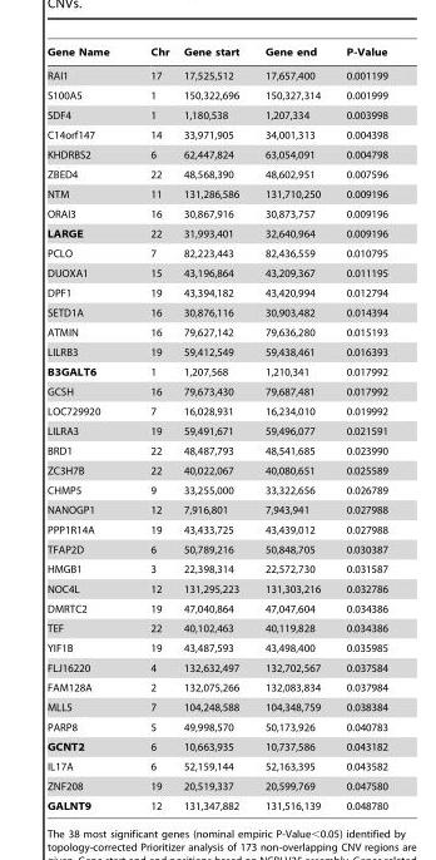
<table><thead><tr><td>Gene Name</td><td>Chr</td><td>Gene start</td><td>Gene end</td><td>P-Value</td></tr></thead><tbody><tr><td>RAI1</td><td>17</td><td>17,525,512</td><td>17,657,400</td><td>0.001199</td></tr><tr><td>S100A5</td><td>1</td><td>150,322,696</td><td>150,327,314</td><td>0.001999</td></tr><tr><td>SDF4</td><td>1</td><td>1,180,538</td><td>1,207,334</td><td>0.003998</td></tr><tr><td>C14orf147</td><td>14</td><td>33,971,905</td><td>34,001,313</td><td>0.004398</td></tr><tr><td>KHDRBS2</td><td>6</td><td>62,447,824</td><td>63,054,091</td><td>0.004798</td></tr><tr><td>ZBED4</td><td>22</td><td>48,568,390</td><td>48,602,951</td><td>0.007596</td></tr><tr><td>NTM</td><td>11</td><td>131,286,586</td><td>131,710,250</td><td>0.009196</td></tr><tr><td>ORAI3</td><td>16</td><td>30,867,916</td><td>30,873,757</td><td>0.009196</td></tr><tr><td>LARGE</td><td>22</td><td>31,993,401</td><td>32,640,964</td><td>0.009196</td></tr><tr><td>PCLO</td><td>7</td><td>82,223,443</td><td>82,436,559</td><td>0.010795</td></tr><tr><td>DUOXA1</td><td>15</td><td>43,196,864</td><td>43,209,367</td><td>0.011195</td></tr><tr><td>DPF1</td><td>19</td><td>43,394,182</td><td>43,420,994</td><td>0.012794</td></tr><tr><td>SETD1A</td><td>16</td><td>30,876,116</td><td>30,903,482</td><td>0.014394</td></tr><tr><td>ATMIN</td><td>16</td><td>79,627,142</td><td>79,636,280</td><td>0.015193</td></tr><tr><td>LILRB3</td><td>19</td><td>59,412,549</td><td>59,438,461</td><td>0.016393</td></tr><tr><td>B3GALT6</td><td>1</td><td>1,207,568</td><td>1,210,341</td><td>0.017992</td></tr><tr><td>GCSH</td><td>16</td><td>79,673,430</td><td>79,687,481</td><td>0.017992</td></tr><tr><td>LOC729920</td><td>7</td><td>16,028,931</td><td>16,234,010</td><td>0.019992</td></tr><tr><td>LILRA3</td><td>19</td><td>59,491,671</td><td>59,496,077</td><td>0.021591</td></tr><tr><td>BRD1</td><td>22</td><td>48,487,793</td><td>48,541,685</td><td>0.023990</td></tr><tr><td>ZC3H7B</td><td>22</td><td>40,022,067</td><td>40,080,651</td><td>0.025589</td></tr><tr><td>CHMP5</td><td>9</td><td>33,255,000</td><td>33,322,656</td><td>0.026789</td></tr><tr><td>NANOGP1</td><td>12</td><td>7,916,801</td><td>7,943,941</td><td>0.027988</td></tr><tr><td>PPP1R14A</td><td>19</td><td>43,433,725</td><td>43,439,012</td><td>0.027988</td></tr><tr><td>TFAP2D</td><td>6</td><td>50,789,216</td><td>50,848,705</td><td>0.030387</td></tr><tr><td>HMGB1</td><td>3</td><td>22,398,314</td><td>22,572,730</td><td>0.031587</td></tr><tr><td>NOC4L</td><td>12</td><td>131,295,223</td><td>131,303,216</td><td>0.032786</td></tr><tr><td>DMRTC2</td><td>19</td><td>47,040,864</td><td>47,047,604</td><td>0.034386</td></tr><tr><td>TEF</td><td>22</td><td>40,102,463</td><td>40,119,828</td><td>0.034386</td></tr><tr><td>YIF1B</td><td>19</td><td>43,487,593</td><td>43,498,400</td><td>0.035985</td></tr><tr><td>FLJ16220</td><td>4</td><td>132,632,497</td><td>132,702,567</td><td>0.037584</td></tr><tr><td>FAM128A</td><td>2</td><td>132,075,266</td><td>132,083,834</td><td>0.037984</td></tr><tr><td>MLL5</td><td>7</td><td>104,248,588</td><td>104,348,759</td><td>0.038384</td></tr><tr><td>PARP8</td><td>5</td><td>49,998,570</td><td>50,173,926</td><td>0.040783</td></tr><tr><td>GCNT2</td><td>6</td><td>10,663,935</td><td>10,737,586</td><td>0.043182</td></tr><tr><td>IL17A</td><td>6</td><td>52,159,144</td><td>52,163,395</td><td>0.043582</td></tr><tr><td>ZNF208</td><td>19</td><td>20,519,337</td><td>20,599,769</td><td>0.047580</td></tr><tr><td>GALNT9</td><td>12</td><td>131,347,882</td><td>131,516,139</td><td>0.048780</td></tr></tbody></table>